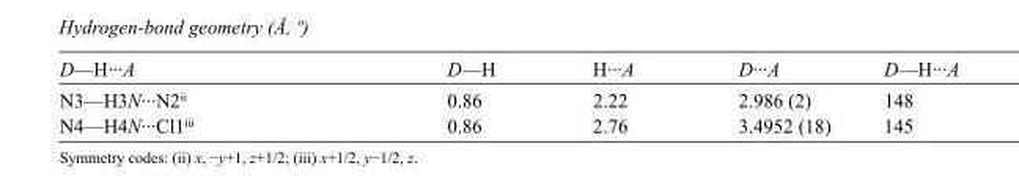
<table><tbody><tr><td>D—H···A</td><td>D—H</td><td>H···A</td><td>D···A</td><td>D—H···A</td></tr><tr><td>N3—H3N···N2<sup>ii</sup></td><td>0.86</td><td>2.22</td><td>2.986 (2)</td><td>148</td></tr><tr><td>N4—H4N···Cl1<sup>iii</sup></td><td>0.86</td><td>2.76</td><td>3.4952 (18)</td><td>145</td></tr></tbody></table>